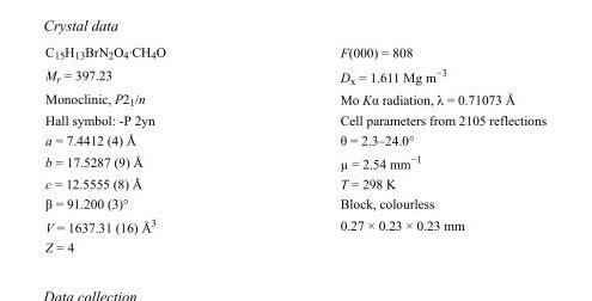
<table><tbody><tr><td>C<sub>15</sub>H<sub>13</sub>BrN<sub>2</sub>O<sub>4</sub>·CH<sub>4</sub>O</td><td>F(000) = 808</td></tr><tr><td>M<sub>r</sub> = 397.23</td><td>D<sub>x</sub> = 1.611 Mg m<sup>−3</sup></td></tr><tr><td>Monoclinic, P2<sub>1</sub>/n</td><td>Mo Kα radiation, λ = 0.71073 Å</td></tr><tr><td>Hall symbol: -P 2yn</td><td>Cell parameters from 2105 reflections</td></tr><tr><td>a = 7.4412 (4) Å</td><td>θ = 2.3–24.0°</td></tr><tr><td>b = 17.5287 (9) Å</td><td>µ = 2.54 mm<sup>−1</sup></td></tr><tr><td>c = 12.5555 (8) Å</td><td>T = 298 K</td></tr><tr><td>β = 91.200 (3)°</td><td>Block, colourless</td></tr><tr><td>V = 1637.31 (16) Å<sup>3</sup></td><td>0.27 × 0.23 × 0.23 mm</td></tr><tr><td>Z = 4</td><td></td></tr></tbody></table>